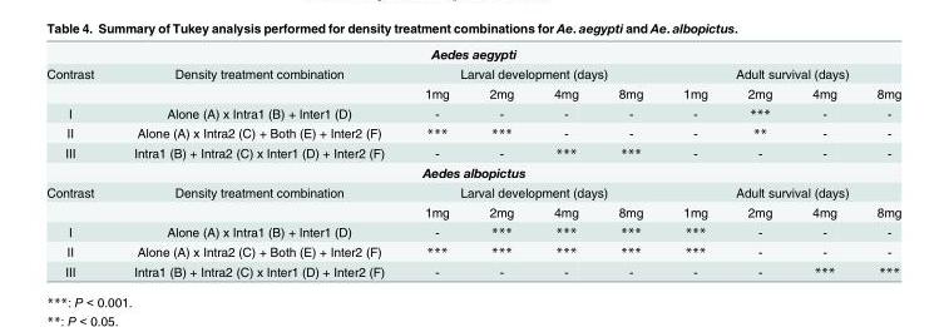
<table><tbody><tr><td colspan="10">Aedes aegypti</td></tr><tr><td rowspan="2">Contrast</td><td>Density treatment combination</td><td colspan="4">Larval development (days)</td><td colspan="4">Adult survival (days)</td></tr><tr><td></td><td>1mg</td><td>2mg</td><td>4mg</td><td>8mg</td><td>1mg</td><td>2mg</td><td>4mg</td><td>8mg</td></tr><tr><td>I</td><td>Alone (A) x Intra1 (B) + Inter1 (D)</td><td>-</td><td>-</td><td>-</td><td>-</td><td>-</td><td>***</td><td>-</td><td>-</td></tr><tr><td>II</td><td>Alone (A) x Intra2 (C) + Both (E) + Inter2 (F)</td><td>***</td><td>***</td><td>-</td><td>-</td><td>-</td><td>**</td><td>-</td><td>-</td></tr><tr><td>III</td><td>Intra1 (B) + Intra2 (C) x Inter1 (D) + Inter2 (F)</td><td>-</td><td>-</td><td>***</td><td>***</td><td>-</td><td>-</td><td>-</td><td>-</td></tr><tr><td colspan="10">Aedes albopictus</td></tr><tr><td rowspan="2">Contrast</td><td>Density treatment combination</td><td colspan="4">Larval development (days)</td><td colspan="4">Adult survival (days)</td></tr><tr><td></td><td>1mg</td><td>2mg</td><td>4mg</td><td>8mg</td><td>1mg</td><td>2mg</td><td>4mg</td><td>8mg</td></tr><tr><td>I</td><td>Alone (A) x Intra1 (B) + Inter1 (D)</td><td>-</td><td>***</td><td>***</td><td>***</td><td>***</td><td>-</td><td>-</td><td>-</td></tr><tr><td>II</td><td>Alone (A) x Intra2 (C) + Both (E) + Inter2 (F)</td><td>***</td><td>***</td><td>***</td><td>***</td><td>***</td><td>-</td><td>-</td><td>-</td></tr><tr><td>III</td><td>Intra1 (B) + Intra2 (C) x Inter1 (D) + Inter2 (F)</td><td>-</td><td>-</td><td>-</td><td>-</td><td>-</td><td>-</td><td>***</td><td>***</td></tr></tbody></table>